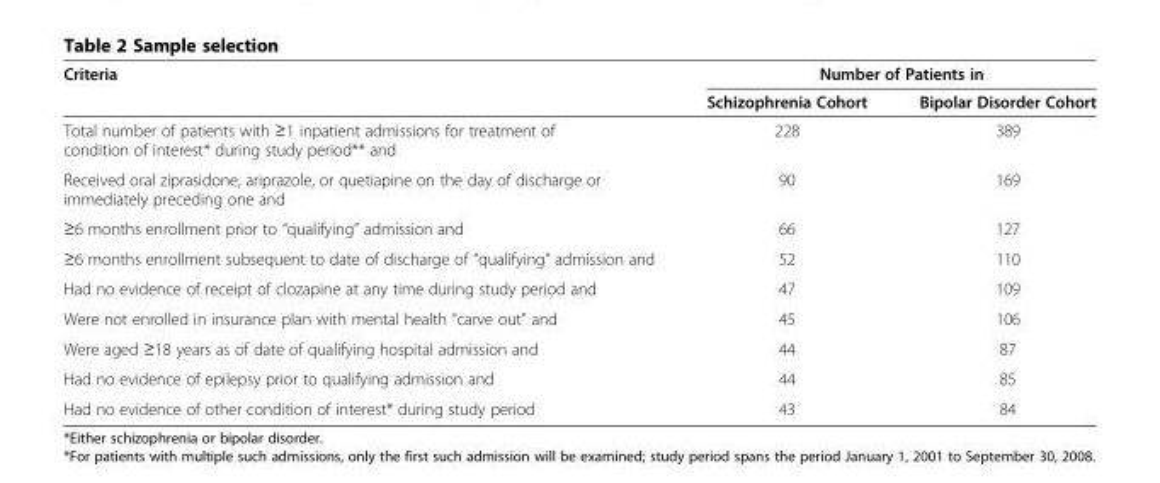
<table><thead><tr><td rowspan="2">Criteria</td><td colspan="2">Number of Patients in</td></tr><tr><td>Schizophrenia Cohort</td><td>Bipolar Disorder Cohort</td></tr></thead><tbody><tr><td>Total number of patients with ≥1 inpatient admissions for treatment of condition of interest* during study period** and</td><td>228</td><td>389</td></tr><tr><td>Received oral ziprasidone, ariprazole, or quetiapine on the day of discharge or immediately preceding one and</td><td>90</td><td>169</td></tr><tr><td>≥6 months enrollment prior to “qualifying” admission and</td><td>66</td><td>127</td></tr><tr><td>≥6 months enrollment subsequent to date of discharge of “qualifying” admission and</td><td>52</td><td>110</td></tr><tr><td>Had no evidence of receipt of clozapine at any time during study period and</td><td>47</td><td>109</td></tr><tr><td>Were not enrolled in insurance plan with mental health “carve out” and</td><td>45</td><td>106</td></tr><tr><td>Were aged ≥18 years as of date of qualifying hospital admission and</td><td>44</td><td>87</td></tr><tr><td>Had no evidence of epilepsy prior to qualifying admission and</td><td>44</td><td>85</td></tr><tr><td>Had no evidence of other condition of interest* during study period</td><td>43</td><td>84</td></tr></tbody></table>